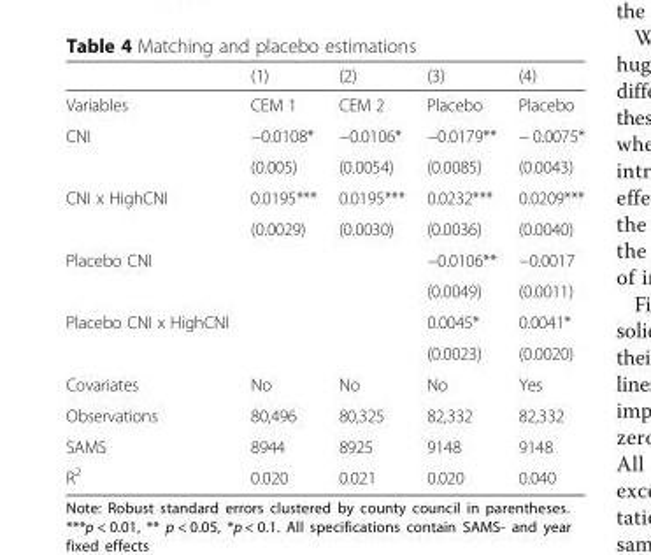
<table><thead><tr><td></td><td>(1)</td><td>(2)</td><td>(3)</td><td>(4)</td></tr></thead><tbody><tr><td>Variables</td><td>CEM 1</td><td>CEM 2</td><td>Placebo</td><td>Placebo</td></tr><tr><td rowspan="2">CNI</td><td>−0.0108*</td><td>−0.0106*</td><td>−0.0179**</td><td>− 0.0075*</td></tr><tr><td>(0.005)</td><td>(0.0054)</td><td>(0.0085)</td><td>(0.0043)</td></tr><tr><td rowspan="2">CNI x HighCNI</td><td>0.0195***</td><td>0.0195***</td><td>0.0232***</td><td>0.0209***</td></tr><tr><td>(0.0029)</td><td>(0.0030)</td><td>(0.0036)</td><td>(0.0040)</td></tr><tr><td rowspan="2">Placebo CNI</td><td></td><td></td><td>−0.0106**</td><td>−0.0017</td></tr><tr><td></td><td></td><td>(0.0049)</td><td>(0.0011)</td></tr><tr><td rowspan="2">Placebo CNI x HighCNI</td><td></td><td></td><td>0.0045*</td><td>0.0041*</td></tr><tr><td></td><td></td><td>(0.0023)</td><td>(0.0020)</td></tr><tr><td>Covariates</td><td>No</td><td>No</td><td>No</td><td>Yes</td></tr><tr><td>Observations</td><td>80,496</td><td>80,325</td><td>82,332</td><td>82,332</td></tr><tr><td>SAMS</td><td>8944</td><td>8925</td><td>9148</td><td>9148</td></tr><tr><td>R<sup>2</sup></td><td>0.020</td><td>0.021</td><td>0.020</td><td>0.040</td></tr></tbody></table>